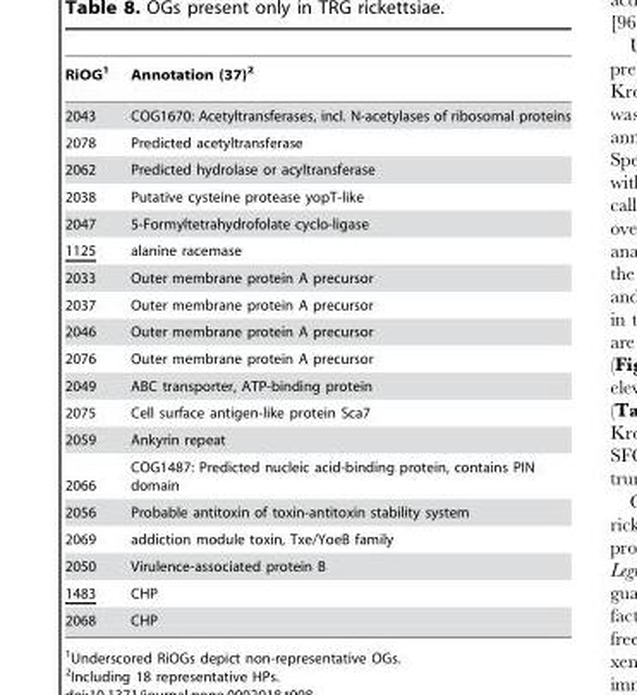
<table><thead><tr><td>RiOG<sup>1</sup></td><td>Annotation (37)<sup>2</sup></td></tr></thead><tbody><tr><td>2043</td><td>COG1670: Acetyltransferases, incl. N-acetylases of ribosomal proteins</td></tr><tr><td>2078</td><td>Predicted acetyltransferase</td></tr><tr><td>2062</td><td>Predicted hydrolase or acyltransferase</td></tr><tr><td>2038</td><td>Putative cysteine protease yopT-like</td></tr><tr><td>2047</td><td>5-Formyltetrahydrofolate cyclo-ligase</td></tr><tr><td>1125</td><td>alanine racemase</td></tr><tr><td>2033</td><td>Outer membrane protein A precursor</td></tr><tr><td>2037</td><td>Outer membrane protein A precursor</td></tr><tr><td>2046</td><td>Outer membrane protein A precursor</td></tr><tr><td>2076</td><td>Outer membrane protein A precursor</td></tr><tr><td>2049</td><td>ABC transporter, ATP-binding protein</td></tr><tr><td>2075</td><td>Cell surface antigen-like protein Sca7</td></tr><tr><td>2059</td><td>Ankyrin repeat</td></tr><tr><td>2066</td><td>COG1487: Predicted nucleic acid-binding protein, contains PIN domain</td></tr><tr><td>2056</td><td>Probable antitoxin of toxin-antitoxin stability system</td></tr><tr><td>2069</td><td>addiction module toxin, Txe/YoeB family</td></tr><tr><td>2050</td><td>Virulence-associated protein B</td></tr><tr><td>1483</td><td>CHP</td></tr><tr><td>2068</td><td>CHP</td></tr></tbody></table>